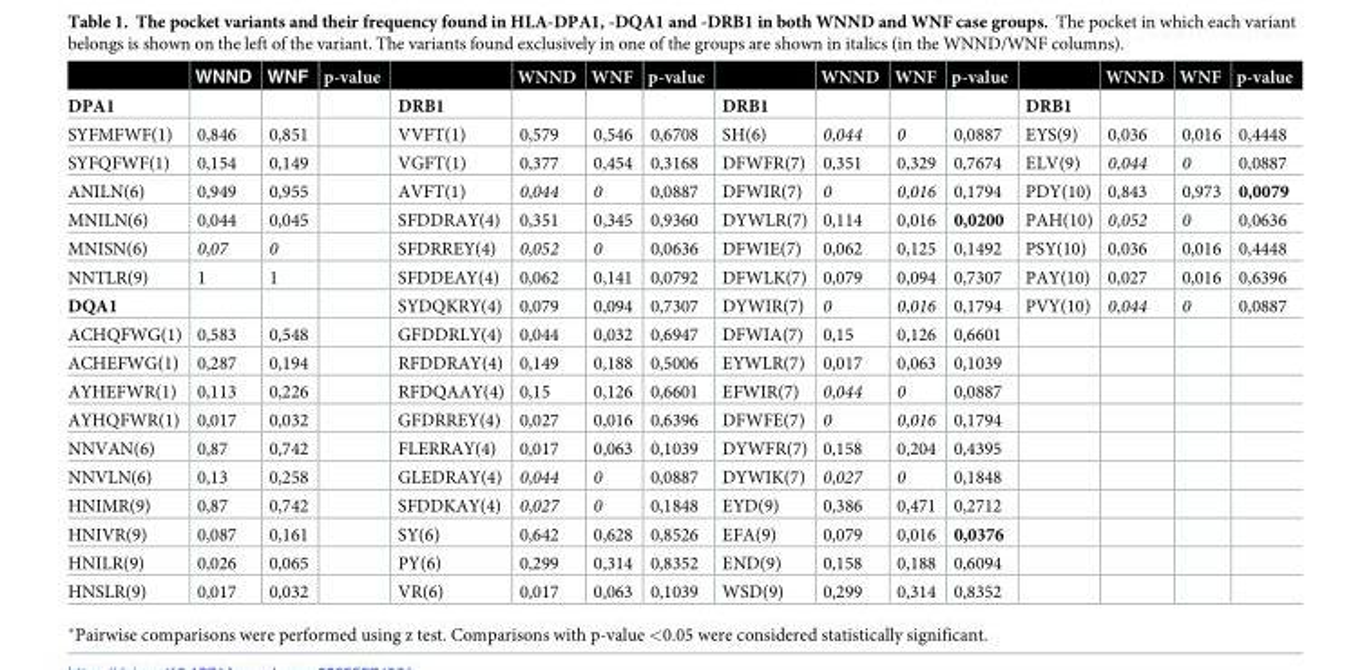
<table><thead><tr><td></td><td>WNND</td><td>WNF</td><td>p-value</td><td></td><td>WNND</td><td>WNF</td><td>p-value</td><td></td><td>WNND</td><td>WNF</td><td>p-value</td><td></td><td>WNND</td><td>WNF</td><td>p-value</td></tr></thead><tbody><tr><td>DPA1</td><td></td><td></td><td></td><td>DRB1</td><td></td><td></td><td></td><td>DRB1</td><td></td><td></td><td></td><td>DRB1</td><td></td><td></td><td></td></tr><tr><td>SYFMFWF(1)</td><td>0,846</td><td>0,851</td><td></td><td>VVFT(1)</td><td>0,579</td><td>0,546</td><td>0,6708</td><td>SH(6)</td><td>0,044</td><td>0</td><td>0,0887</td><td>EYS(9)</td><td>0,036</td><td>0,016</td><td>0,4448</td></tr><tr><td>SYFQFWF(1)</td><td>0,154</td><td>0,149</td><td></td><td>VGFT(1)</td><td>0,377</td><td>0,454</td><td>0,3168</td><td>DFWFR(7)</td><td>0,351</td><td>0,329</td><td>0,7674</td><td>ELV(9)</td><td>0,044</td><td>0</td><td>0,0887</td></tr><tr><td>ANILN(6)</td><td>0,949</td><td>0,955</td><td></td><td>AVFT(1)</td><td>0,044</td><td>0</td><td>0,0887</td><td>DFWIR(7)</td><td>0</td><td>0,016</td><td>0,1794</td><td>PDY(10)</td><td>0,843</td><td>0,973</td><td>0,0079</td></tr><tr><td>MNILN(6)</td><td>0,044</td><td>0,045</td><td></td><td>SFDDRAY(4)</td><td>0,351</td><td>0,345</td><td>0,9360</td><td>DYWLR(7)</td><td>0,114</td><td>0,016</td><td>0,0200</td><td>PAH(10)</td><td>0,052</td><td>0</td><td>0,0636</td></tr><tr><td>MNISN(6)</td><td>0,07</td><td>0</td><td></td><td>SFDRREY(4)</td><td>0,052</td><td>0</td><td>0,0636</td><td>DFWIE(7)</td><td>0,062</td><td>0,125</td><td>0,1492</td><td>PSY(10)</td><td>0,036</td><td>0,016</td><td>0,4448</td></tr><tr><td>NNTLR(9)</td><td>1</td><td>1</td><td></td><td>SFDDEAY(4)</td><td>0,062</td><td>0,141</td><td>0,0792</td><td>DFWLK(7)</td><td>0,079</td><td>0,094</td><td>0,7307</td><td>PAY(10)</td><td>0,027</td><td>0,016</td><td>0,6396</td></tr><tr><td>DQA1</td><td></td><td></td><td></td><td>SYDQKRY(4)</td><td>0,079</td><td>0,094</td><td>0,7307</td><td>DYWIR(7)</td><td>0</td><td>0,016</td><td>0,1794</td><td>PVY(10)</td><td>0,044</td><td>0</td><td>0,0887</td></tr><tr><td>ACHQFWG(1)</td><td>0,583</td><td>0,548</td><td></td><td>GFDDRLY(4)</td><td>0,044</td><td>0,032</td><td>0,6947</td><td>DFWIA(7)</td><td>0,15</td><td>0,126</td><td>0,6601</td><td></td><td></td><td></td><td></td></tr><tr><td>ACHEFWG(1)</td><td>0,287</td><td>0,194</td><td></td><td>RFDDRAY(4)</td><td>0,149</td><td>0,188</td><td>0,5006</td><td>EYWLR(7)</td><td>0,017</td><td>0,063</td><td>0,1039</td><td></td><td></td><td></td><td></td></tr><tr><td>AYHEFWR(1)</td><td>0,113</td><td>0,226</td><td></td><td>RFDQAAY(4)</td><td>0,15</td><td>0,126</td><td>0,6601</td><td>EFWIR(7)</td><td>0,044</td><td>0</td><td>0,0887</td><td></td><td></td><td></td><td></td></tr><tr><td>AYHQFWR(1)</td><td>0,017</td><td>0,032</td><td></td><td>GFDRREY(4)</td><td>0,027</td><td>0,016</td><td>0,6396</td><td>DFWFE(7)</td><td>0</td><td>0,016</td><td>0,1794</td><td></td><td></td><td></td><td></td></tr><tr><td>NNVAN(6)</td><td>0,87</td><td>0,742</td><td></td><td>FLERRAY(4)</td><td>0,017</td><td>0,063</td><td>0,1039</td><td>DYWFR(7)</td><td>0,158</td><td>0,204</td><td>0,4395</td><td></td><td></td><td></td><td></td></tr><tr><td>NNVLN(6)</td><td>0,13</td><td>0,258</td><td></td><td>GLEDRAY(4)</td><td>0,044</td><td>0</td><td>0,0887</td><td>DYWIK(7)</td><td>0,027</td><td>0</td><td>0,1848</td><td></td><td></td><td></td><td></td></tr><tr><td>HNIMR(9)</td><td>0,87</td><td>0,742</td><td></td><td>SFDDKAY(4)</td><td>0,027</td><td>0</td><td>0,1848</td><td>EYD(9)</td><td>0,386</td><td>0,471</td><td>0,2712</td><td></td><td></td><td></td><td></td></tr><tr><td>HNIVR(9)</td><td>0,087</td><td>0,161</td><td></td><td>SY(6)</td><td>0,642</td><td>0,628</td><td>0,8526</td><td>EFA(9)</td><td>0,079</td><td>0,016</td><td>0,0376</td><td></td><td></td><td></td><td></td></tr><tr><td>HNILR(9)</td><td>0,026</td><td>0,065</td><td></td><td>PY(6)</td><td>0,299</td><td>0,314</td><td>0,8352</td><td>END(9)</td><td>0,158</td><td>0,188</td><td>0,6094</td><td></td><td></td><td></td><td></td></tr><tr><td>HNSLR(9)</td><td>0,017</td><td>0,032</td><td></td><td>VR(6)</td><td>0,017</td><td>0,063</td><td>0,1039</td><td>WSD(9)</td><td>0,299</td><td>0,314</td><td>0,8352</td><td></td><td></td><td></td><td></td></tr></tbody></table>